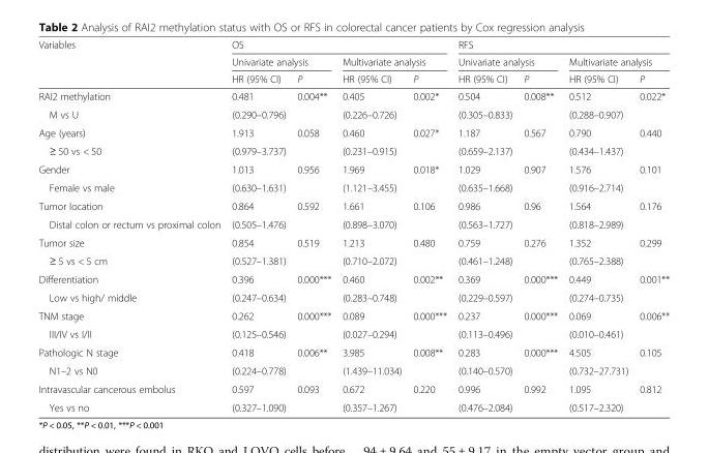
<table><thead><tr><td rowspan="3">Variables</td><td colspan="4">OS</td><td colspan="4">RFS</td></tr><tr><td colspan="2">Univariate analysis</td><td colspan="2">Multivariate analysis</td><td colspan="2">Univariate analysis</td><td colspan="2">Multivariate analysis</td></tr><tr><td>HR (95% CI)</td><td>P</td><td>HR (95% CI)</td><td>P</td><td>HR (95% CI)</td><td>P</td><td>HR (95% CI)</td><td>P</td></tr></thead><tbody><tr><td>RAI2 methylation</td><td>0.481</td><td>0.004**</td><td>0.405</td><td>0.002*</td><td>0.504</td><td>0.008**</td><td>0.512</td><td>0.022*</td></tr><tr><td>M vs U</td><td>(0.290–0.796)</td><td></td><td>(0.226–0.726)</td><td></td><td>(0.305–0.833)</td><td></td><td>(0.288–0.907)</td><td></td></tr><tr><td>Age (years)</td><td>1.913</td><td>0.058</td><td>0.460</td><td>0.027*</td><td>1.187</td><td>0.567</td><td>0.790</td><td>0.440</td></tr><tr><td>≥ 50 vs &lt; 50</td><td>(0.979–3.737)</td><td></td><td>(0.231–0.915)</td><td></td><td>(0.659–2.137)</td><td></td><td>(0.434–1.437)</td><td></td></tr><tr><td>Gender</td><td>1.013</td><td>0.956</td><td>1.969</td><td>0.018*</td><td>1.029</td><td>0.907</td><td>1.576</td><td>0.101</td></tr><tr><td>Female vs male</td><td>(0.630–1.631)</td><td></td><td>(1.121–3.455)</td><td></td><td>(0.635–1.668)</td><td></td><td>(0.916–2.714)</td><td></td></tr><tr><td>Tumor location</td><td>0.864</td><td>0.592</td><td>1.661</td><td>0.106</td><td>0.986</td><td>0.96</td><td>1.564</td><td>0.176</td></tr><tr><td>Distal colon or rectum vs proximal colon</td><td>(0.505–1.476)</td><td></td><td>(0.898–3.070)</td><td></td><td>(0.563–1.727)</td><td></td><td>(0.818–2.989)</td><td></td></tr><tr><td>Tumor size</td><td>0.854</td><td>0.519</td><td>1.213</td><td>0.480</td><td>0.759</td><td>0.276</td><td>1.352</td><td>0.299</td></tr><tr><td>≥ 5 vs &lt; 5 cm</td><td>(0.527–1.381)</td><td></td><td>(0.710–2.072)</td><td></td><td>(0.461–1.248)</td><td></td><td>(0.765–2.388)</td><td></td></tr><tr><td>Differentiation</td><td>0.396</td><td>0.000***</td><td>0.460</td><td>0.002**</td><td>0.369</td><td>0.000***</td><td>0.449</td><td>0.001**</td></tr><tr><td>Low vs high/ middle</td><td>(0.247–0.634)</td><td></td><td>(0.283–0.748)</td><td></td><td>(0.229–0.597)</td><td></td><td>(0.274–0.735)</td><td></td></tr><tr><td>TNM stage</td><td>0.262</td><td rowspan="2">0.000***</td><td>0.089</td><td rowspan="2">0.000***</td><td>0.237</td><td rowspan="2">0.000***</td><td>0.069</td><td rowspan="2">0.006**</td></tr><tr><td>III/IV vs I/II</td><td>(0.125–0.546)</td><td>(0.027–0.294)</td><td>(0.113–0.496)</td><td>(0.010–0.461)</td></tr><tr><td>Pathologic N stage</td><td>0.418</td><td>0.006**</td><td>3.985</td><td>0.008**</td><td>0.283</td><td>0.000***</td><td>4.505</td><td>0.105</td></tr><tr><td>N1–2 vs N0</td><td>(0.224–0.778)</td><td></td><td>(1.439–11.034)</td><td></td><td>(0.140–0.570)</td><td></td><td>(0.732–27.731)</td><td></td></tr><tr><td>Intravascular cancerous embolus</td><td>0.597</td><td>0.093</td><td>0.672</td><td>0.220</td><td>0.996</td><td>0.992</td><td>1.095</td><td>0.812</td></tr><tr><td>Yes vs no</td><td>(0.327–1.090)</td><td></td><td>(0.357–1.267)</td><td></td><td>(0.476–2.084)</td><td></td><td>(0.517–2.320)</td><td></td></tr></tbody></table>